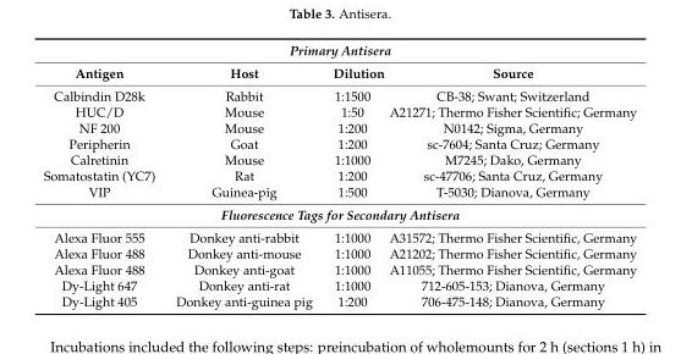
<table><tbody><tr><td colspan="4">Primary Antisera</td></tr><tr><td>Antigen</td><td>Host</td><td>Dilution</td><td>Source</td></tr><tr><td>Calbindin D28k</td><td>Rabbit</td><td>1:1500</td><td>CB-38; Swant; Switzerland</td></tr><tr><td>HUC/D</td><td>Mouse</td><td>1:50</td><td>A21271; Thermo Fisher Scientific; Germany</td></tr><tr><td>NF 200</td><td>Mouse</td><td>1:200</td><td>N0142; Sigma, Germany</td></tr><tr><td>Peripherin</td><td>Goat</td><td>1:200</td><td>sc-7604; Santa Cruz; Germany</td></tr><tr><td>Calretinin</td><td>Mouse</td><td>1:1000</td><td>M7245; Dako, Germany</td></tr><tr><td>Somatostatin (YC7)</td><td>Rat</td><td>1:200</td><td>sc-47706; Santa Cruz, Germany</td></tr><tr><td>VIP</td><td>Guinea-pig</td><td>1:500</td><td>T-5030; Dianova, Germany</td></tr><tr><td colspan="4">Fluorescence Tags for Secondary Antisera</td></tr><tr><td>Alexa Fluor 555</td><td>Donkey anti-rabbit</td><td>1:1000</td><td>A31572; Thermo Fisher Scientific, Germany</td></tr><tr><td>Alexa Fluor 488</td><td>Donkey anti-mouse</td><td>1:1000</td><td>A21202; Thermo Fisher Scientific, Germany</td></tr><tr><td>Alexa Fluor 488</td><td>Donkey anti-goat</td><td>1:1000</td><td>A11055; Thermo Fisher Scientific, Germany</td></tr><tr><td>Dy-Light 647</td><td>Donkey anti-rat</td><td>1:1000</td><td>712-605-153; Dianova, Germany</td></tr><tr><td>Dy-Light 405</td><td>Donkey anti-guinea pig</td><td>1:200</td><td>706-475-148; Dianova, Germany</td></tr></tbody></table>